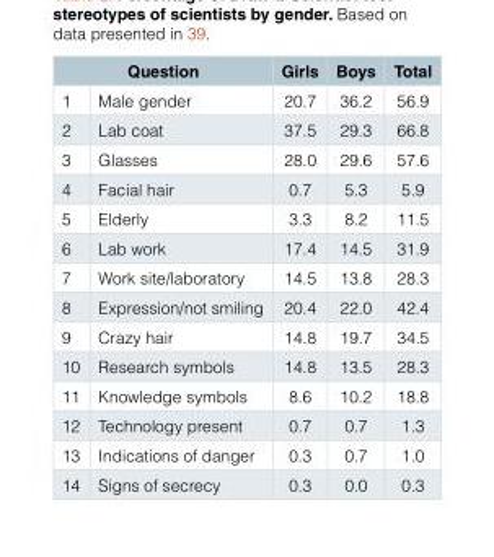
<table><thead><tr><td colspan="2">Question</td><td rowspan="2">Girls 20.7</td><td rowspan="2">Boys 36.2</td><td rowspan="2">Total 56.9</td></tr><tr><td>1</td><td>Male gender</td></tr></thead><tbody><tr><td>2</td><td>Lab coat</td><td>37.5</td><td>29.3</td><td>66.8</td></tr><tr><td>3</td><td>Glasses</td><td>28.0</td><td>29.6</td><td>57.6</td></tr><tr><td>4</td><td>Facial hair</td><td>0.7</td><td>5.3</td><td>5.9</td></tr><tr><td>5</td><td>Elderly</td><td>3.3</td><td>8.2</td><td>11.5</td></tr><tr><td>6</td><td>Lab work</td><td>17.4</td><td>14.5</td><td>31.9</td></tr><tr><td>7</td><td>Work site/laboratory</td><td>14.5</td><td>13.8</td><td>28.3</td></tr><tr><td>8</td><td>Expression/not smiling</td><td>20.4</td><td>22.0</td><td>42.4</td></tr><tr><td>9</td><td>Crazy hair</td><td>14.8</td><td>19.7</td><td>34.5</td></tr><tr><td>10</td><td>Research symbols</td><td>14.8</td><td>13.5</td><td>28.3</td></tr><tr><td>11</td><td>Knowledge symbols</td><td>8.6</td><td>10.2</td><td>18.8</td></tr><tr><td>12</td><td>Technology present</td><td>0.7</td><td>0.7</td><td>1.3</td></tr><tr><td>13</td><td>Indications of danger</td><td>0.3</td><td>0.7</td><td>1.0</td></tr><tr><td>14</td><td>Signs of secrecy</td><td>0.3</td><td>0.0</td><td>0.3</td></tr></tbody></table>